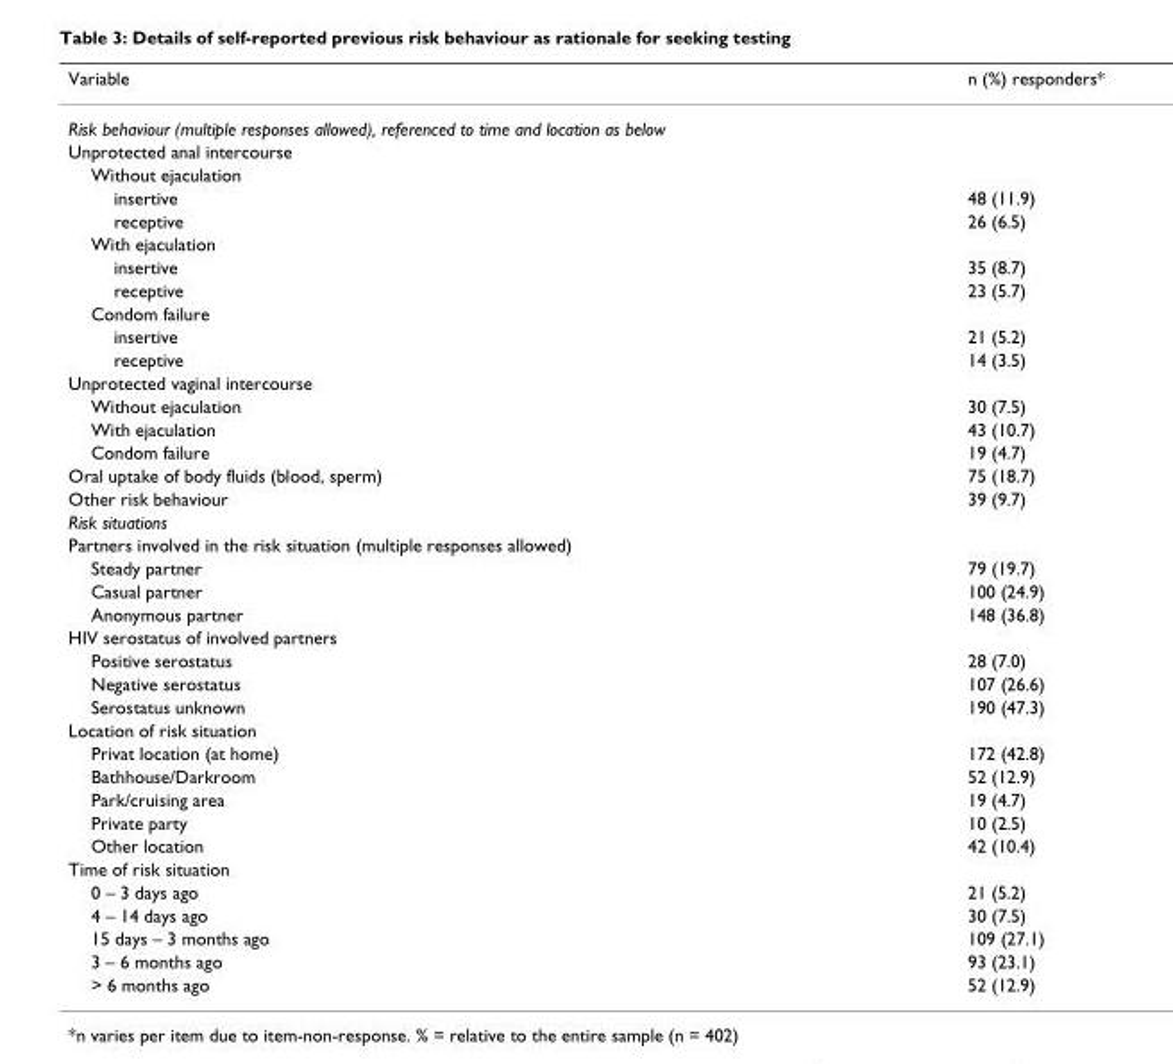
<table><thead><tr><td>Variable</td><td>n (%) responders*</td></tr></thead><tbody><tr><td colspan="2">Risk behaviour (multiple responses allowed), referenced to time and location as below</td></tr><tr><td colspan="2">Unprotected anal intercourse</td></tr><tr><td colspan="2">Without ejaculation</td></tr><tr><td>insertive</td><td>48 (11.9)</td></tr><tr><td>receptive</td><td>26 (6.5)</td></tr><tr><td colspan="2">With ejaculation</td></tr><tr><td>insertive</td><td>35 (8.7)</td></tr><tr><td>receptive</td><td>23 (5.7)</td></tr><tr><td colspan="2">Condom failure</td></tr><tr><td>insertive</td><td>21 (5.2)</td></tr><tr><td>receptive</td><td>14 (3.5)</td></tr><tr><td colspan="2">Unprotected vaginal intercourse</td></tr><tr><td>Without ejaculation</td><td>30 (7.5)</td></tr><tr><td>With ejaculation</td><td>43 (10.7)</td></tr><tr><td>Condom failure</td><td>19 (4.7)</td></tr><tr><td>Oral uptake of body fluids (blood, sperm)</td><td>75 (18.7)</td></tr><tr><td>Other risk behaviour</td><td>39 (9.7)</td></tr><tr><td colspan="2">Risk situations</td></tr><tr><td colspan="2">Partners involved in the risk situation (multiple responses allowed)</td></tr><tr><td>Steady partner</td><td>79 (19.7)</td></tr><tr><td>Casual partner</td><td>100 (24.9)</td></tr><tr><td>Anonymous partner</td><td>148 (36.8)</td></tr><tr><td colspan="2">HIV serostatus of involved partners</td></tr><tr><td>Positive serostatus</td><td>28 (7.0)</td></tr><tr><td>Negative serostatus</td><td>107 (26.6)</td></tr><tr><td>Serostatus unknown</td><td>190 (47.3)</td></tr><tr><td colspan="2">Location of risk situation</td></tr><tr><td>Privat location (at home)</td><td>172 (42.8)</td></tr><tr><td>Bathhouse/Darkroom</td><td>52 (12.9)</td></tr><tr><td>Park/cruising area</td><td>19 (4.7)</td></tr><tr><td>Private party</td><td>10 (2.5)</td></tr><tr><td>Other location</td><td>42 (10.4)</td></tr><tr><td colspan="2">Time of risk situation</td></tr><tr><td>0 – 3 days ago</td><td>21 (5.2)</td></tr><tr><td>4 – 14 days ago</td><td>30 (7.5)</td></tr><tr><td>15 days – 3 months ago</td><td>109 (27.1)</td></tr><tr><td>3 – 6 months ago</td><td>93 (23.1)</td></tr><tr><td>&gt; 6 months ago</td><td>52 (12.9)</td></tr></tbody></table>